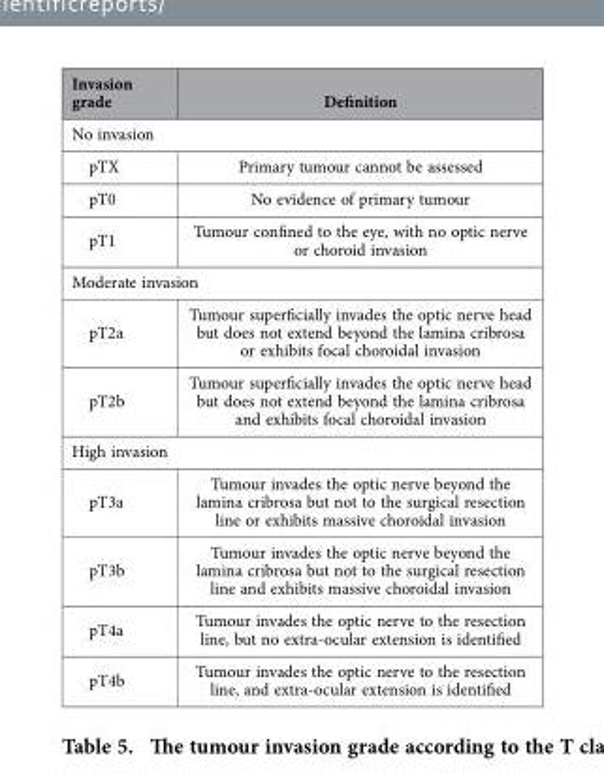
<table><thead><tr><td>Invasion grade</td><td>Definition</td></tr></thead><tbody><tr><td colspan="2">No invasion</td></tr><tr><td>pTX</td><td>Primary tumour cannot be assessed</td></tr><tr><td>pT0</td><td>No evidence of primary tumour</td></tr><tr><td>pT1</td><td>Tumour confined to the eye, with no optic nerve or choroid invasion</td></tr><tr><td colspan="2">Moderate invasion</td></tr><tr><td>pT2a</td><td>Tumour superficially invades the optic nerve head but does not extend beyond the lamina cribrosa or exhibits focal choroidal invasion</td></tr><tr><td>pT2b</td><td>Tumour superficially invades the optic nerve head but does not extend beyond the lamina cribrosa and exhibits focal choroidal invasion</td></tr><tr><td colspan="2">High invasion</td></tr><tr><td>pT3a</td><td>Tumour invades the optic nerve beyond the lamina cribrosa but not to the surgical resection line or exhibits massive choroidal invasion</td></tr><tr><td>pT3b</td><td>Tumour invades the optic nerve beyond the lamina cribrosa but not to the surgical resection line and exhibits massive choroidal invasion</td></tr><tr><td>pT4a</td><td>Tumour invades the optic nerve to the resection line, but no extra-ocular extension is identified</td></tr><tr><td>pT4b</td><td>Tumour invades the optic nerve to the resection line, and extra-ocular extension is identified</td></tr></tbody></table>